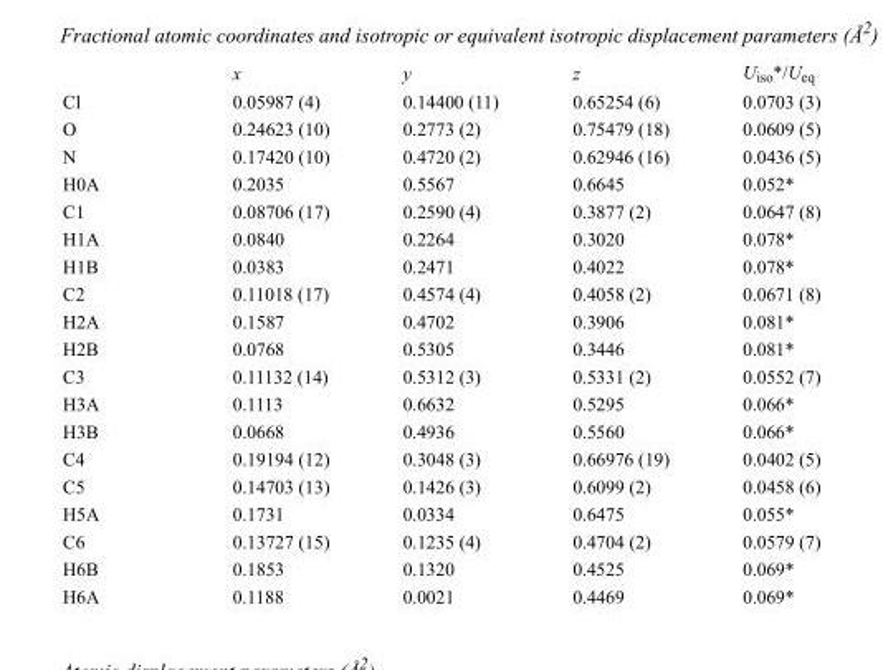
<table><thead><tr><td></td><td>x</td><td>y</td><td>z</td><td>U<sub>iso</sub>*/U<sub>eq</sub></td></tr></thead><tbody><tr><td>Cl</td><td>0.05987 (4)</td><td>0.14400 (11)</td><td>0.65254 (6)</td><td>0.0703 (3)</td></tr><tr><td>O</td><td>0.24623 (10)</td><td>0.2773 (2)</td><td>0.75479 (18)</td><td>0.0609 (5)</td></tr><tr><td>N</td><td>0.17420 (10)</td><td>0.4720 (2)</td><td>0.62946 (16)</td><td>0.0436 (5)</td></tr><tr><td>H0A</td><td>0.2035</td><td>0.5567</td><td>0.6645</td><td>0.052*</td></tr><tr><td>C1</td><td>0.08706 (17)</td><td>0.2590 (4)</td><td>0.3877 (2)</td><td>0.0647 (8)</td></tr><tr><td>H1A</td><td>0.0840</td><td>0.2264</td><td>0.3020</td><td>0.078*</td></tr><tr><td>H1B</td><td>0.0383</td><td>0.2471</td><td>0.4022</td><td>0.078*</td></tr><tr><td>C2</td><td>0.11018 (17)</td><td>0.4574 (4)</td><td>0.4058 (2)</td><td>0.0671 (8)</td></tr><tr><td>H2A</td><td>0.1587</td><td>0.4702</td><td>0.3906</td><td>0.081*</td></tr><tr><td>H2B</td><td>0.0768</td><td>0.5305</td><td>0.3446</td><td>0.081*</td></tr><tr><td>C3</td><td>0.11132 (14)</td><td>0.5312 (3)</td><td>0.5331 (2)</td><td>0.0552 (7)</td></tr><tr><td>H3A</td><td>0.1113</td><td>0.6632</td><td>0.5295</td><td>0.066*</td></tr><tr><td>H3B</td><td>0.0668</td><td>0.4936</td><td>0.5560</td><td>0.066*</td></tr><tr><td>C4</td><td>0.19194 (12)</td><td>0.3048 (3)</td><td>0.66976 (19)</td><td>0.0402 (5)</td></tr><tr><td>C5</td><td>0.14703 (13)</td><td>0.1426 (3)</td><td>0.6099 (2)</td><td>0.0458 (6)</td></tr><tr><td>H5A</td><td>0.1731</td><td>0.0334</td><td>0.6475</td><td>0.055*</td></tr><tr><td>C6</td><td>0.13727 (15)</td><td>0.1235 (4)</td><td>0.4704 (2)</td><td>0.0579 (7)</td></tr><tr><td>H6B</td><td>0.1853</td><td>0.1320</td><td>0.4525</td><td>0.069*</td></tr><tr><td>H6A</td><td>0.1188</td><td>0.0021</td><td>0.4469</td><td>0.069*</td></tr></tbody></table>